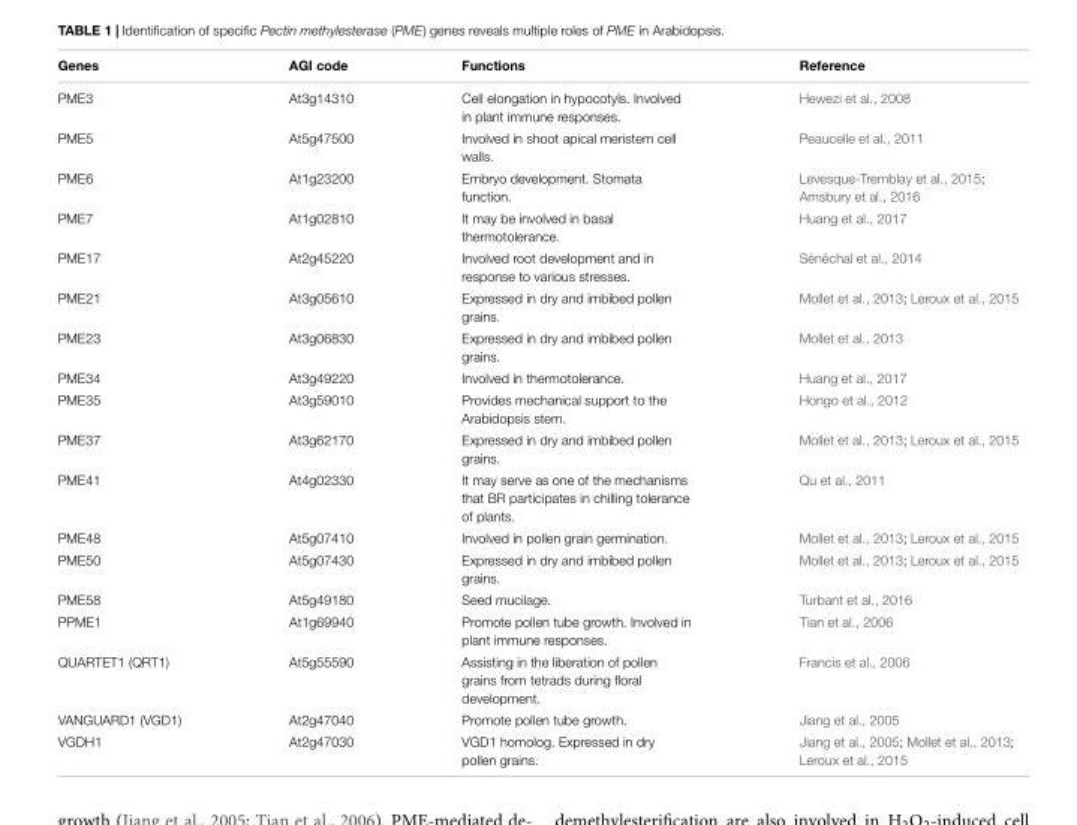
<table><thead><tr><td>Genes</td><td>AGI code</td><td>Functions</td><td>Reference</td></tr></thead><tbody><tr><td>PME3</td><td>At3g14310</td><td>Cell elongation in hypocotyls. Involved in plant immune responses.</td><td>Hewezi et al., 2008</td></tr><tr><td>PME5</td><td>At5g47500</td><td>Involved in shoot apical meristem cell walls.</td><td>Peaucelle et al., 2011</td></tr><tr><td>PME6</td><td>At1g23200</td><td>Embryo development. Stomata function.</td><td>Levesque-Tremblay et al., 2015; Amsbury et al., 2016</td></tr><tr><td>PME7</td><td>At1g02810</td><td>It may be involved in basal thermotolerance.</td><td>Huang et al., 2017</td></tr><tr><td>PME17</td><td>At2g45220</td><td>Involved root development and in response to various stresses.</td><td>Sénéchal et al., 2014</td></tr><tr><td>PME21</td><td>At3g05610</td><td>Expressed in dry and imbibed pollen grains.</td><td>Mollet et al., 2013; Leroux et al., 2015</td></tr><tr><td>PME23</td><td>At3g06830</td><td>Expressed in dry and imbibed pollen grains.</td><td>Mollet et al., 2013</td></tr><tr><td>PME34</td><td>At3g49220</td><td>Involved in thermotolerance.</td><td>Huang et al., 2017</td></tr><tr><td>PME35</td><td>At3g59010</td><td>Provides mechanical support to the Arabidopsis stem.</td><td>Hongo et al., 2012</td></tr><tr><td>PME37</td><td>At3g62170</td><td>Expressed in dry and imbibed pollen grains.</td><td>Mollet et al., 2013; Leroux et al., 2015</td></tr><tr><td>PME41</td><td>At4g02330</td><td>It may serve as one of the mechanisms that BR participates in chilling tolerance of plants.</td><td>Qu et al., 2011</td></tr><tr><td>PME48</td><td>At5g07410</td><td>Involved in pollen grain germination.</td><td>Mollet et al., 2013; Leroux et al., 2015</td></tr><tr><td>PME50</td><td>At5g07430</td><td>Expressed in dry and imbibed pollen grains.</td><td>Mollet et al., 2013; Leroux et al., 2015</td></tr><tr><td>PME58</td><td>At5g49180</td><td>Seed mucilage.</td><td>Turbant et al., 2016</td></tr><tr><td>PPME1</td><td>At1g69940</td><td>Promote pollen tube growth. Involved in plant immune responses.</td><td>Tian et al., 2006</td></tr><tr><td>QUARTET1 (QRT1)</td><td>At5g55590</td><td>Assisting in the liberation of pollen grains from tetrads during floral development.</td><td>Francis et al., 2006</td></tr><tr><td>VANGUARD1 (VGD1)</td><td>At2g47040</td><td>Promote pollen tube growth.</td><td>Jiang et al., 2005</td></tr><tr><td>VGDH1</td><td>At2g47030</td><td>VGD1 homolog. Expressed in dry pollen grains.</td><td>Jiang et al., 2005; Mollet et al., 2013; Leroux et al., 2015</td></tr></tbody></table>